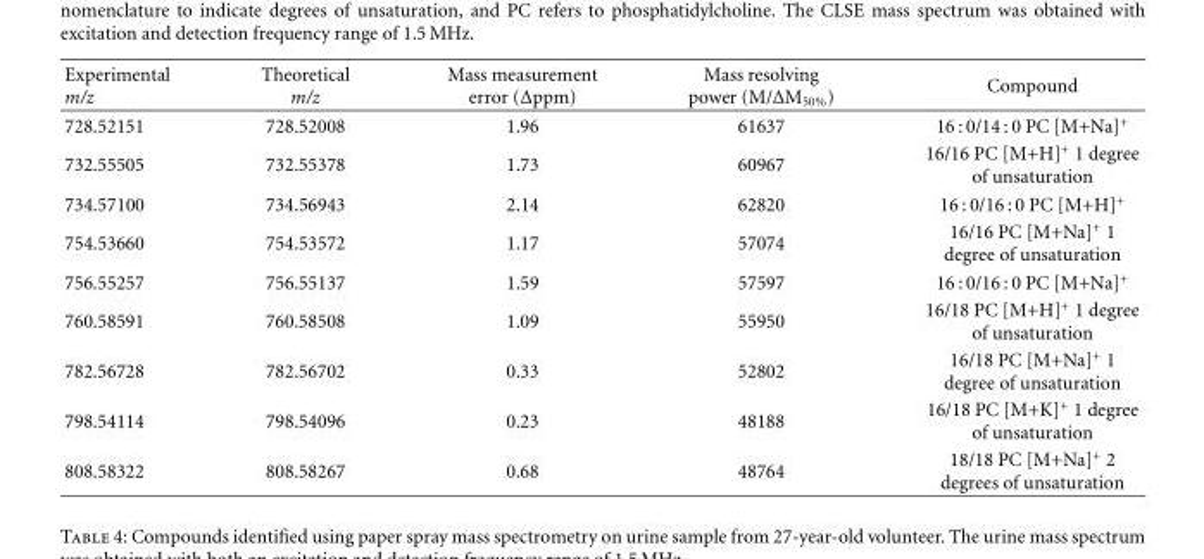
<table><thead><tr><td>Experimental m/z</td><td>Theoretical m/z</td><td>Mass measurement error (Δppm)</td><td>Mass resolving power (M/ΔM<sub>50%</sub>)</td><td>Compound</td></tr></thead><tbody><tr><td>728.52151</td><td>728.52008</td><td>1.96</td><td>61637</td><td>16 : 0/14 : 0 PC [M+Na]<sup>+</sup></td></tr><tr><td>732.55505</td><td>732.55378</td><td>1.73</td><td>60967</td><td>16/16 PC [M+H]<sup>+</sup> 1 degree of unsaturation</td></tr><tr><td>734.57100</td><td>734.56943</td><td>2.14</td><td>62820</td><td>16 : 0/16 : 0 PC [M+H]<sup>+</sup></td></tr><tr><td>754.53660</td><td>754.53572</td><td>1.17</td><td>57074</td><td>16/16 PC [M+Na]<sup>+</sup> 1 degree of unsaturation</td></tr><tr><td>756.55257</td><td>756.55137</td><td>1.59</td><td>57597</td><td>16 : 0/16 : 0 PC [M+Na]<sup>+</sup></td></tr><tr><td>760.58591</td><td>760.58508</td><td>1.09</td><td>55950</td><td>16/18 PC [M+H]<sup>+</sup> 1 degree of unsaturation</td></tr><tr><td>782.56728</td><td>782.56702</td><td>0.33</td><td>52802</td><td>16/18 PC [M+Na]<sup>+</sup> 1 degree of unsaturation</td></tr><tr><td>798.54114</td><td>798.54096</td><td>0.23</td><td>48188</td><td>16/18 PC [M+K]<sup>+</sup> 1 degree of unsaturation</td></tr><tr><td>808.58322</td><td>808.58267</td><td>0.68</td><td>48764</td><td>18/18 PC [M+Na]<sup>+</sup> 2 degrees of unsaturation</td></tr></tbody></table>